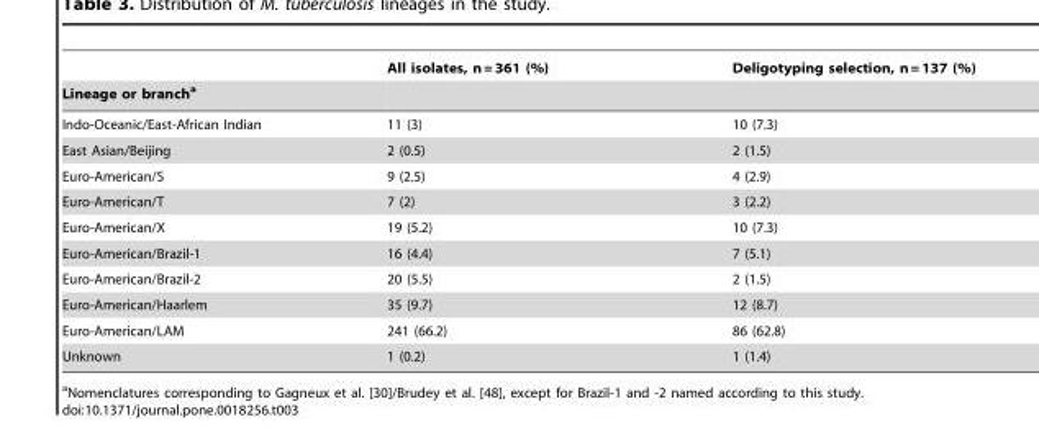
<table><thead><tr><td rowspan="2">Lineage or branch<sup>a</sup></td><td rowspan="2">All isolates, n = 361 (%)</td><td rowspan="2">Deligotyping selection, n = 137 (%)</td></tr><tr></tr></thead><tbody><tr><td>Indo-Oceanic/East-African Indian</td><td>11 (3)</td><td>10 (7.3)</td></tr><tr><td>East Asian/Beijing</td><td>2 (0.5)</td><td>2 (1.5)</td></tr><tr><td>Euro-American/S</td><td>9 (2.5)</td><td>4 (2.9)</td></tr><tr><td>Euro-American/T</td><td>7 (2)</td><td>3 (2.2)</td></tr><tr><td>Euro-American/X</td><td>19 (5.2)</td><td>10 (7.3)</td></tr><tr><td>Euro-American/Brazil-1</td><td>16 (4.4)</td><td>7 (5.1)</td></tr><tr><td>Euro-American/Brazil-2</td><td>20 (5.5)</td><td>2 (1.5)</td></tr><tr><td>Euro-American/Haarlem</td><td>35 (9.7)</td><td>12 (8.7)</td></tr><tr><td>Euro-American/LAM</td><td>241 (66.2)</td><td>86 (62.8)</td></tr><tr><td>Unknown</td><td>1 (0.2)</td><td>1 (1.4)</td></tr></tbody></table>